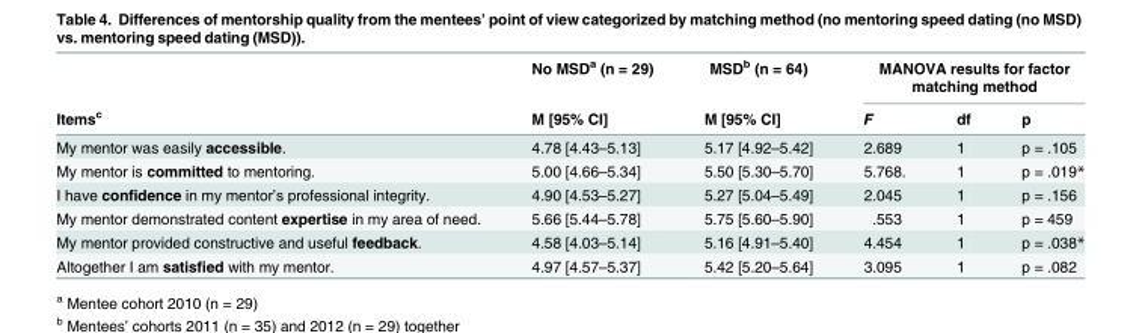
<table><thead><tr><td rowspan="2">Items<sup>c</sup></td><td rowspan="2">No MSD<sup>a</sup> (n = 29) M [95% CI]</td><td rowspan="2">MSD<sup>b</sup> (n = 64) M [95% CI]</td><td colspan="3">MANOVA results for factor matching method</td></tr><tr><td>F</td><td>df</td><td>p</td></tr></thead><tbody><tr><td>My mentor was easily accessible.</td><td>4.78 [4.43–5.13]</td><td>5.17 [4.92–5.42]</td><td>2.689</td><td>1</td><td>p = .105</td></tr><tr><td>My mentor is committed to mentoring.</td><td>5.00 [4.66–5.34]</td><td>5.50 [5.30–5.70]</td><td>5.768.</td><td>1</td><td>p = .019*</td></tr><tr><td>I have confidence in my mentor’s professional integrity.</td><td>4.90 [4.53–5.27]</td><td>5.27 [5.04–5.49]</td><td>2.045</td><td>1</td><td>p = .156</td></tr><tr><td>My mentor demonstrated content expertise in my area of need.</td><td>5.66 [5.44–5.78]</td><td>5.75 [5.60–5.90]</td><td>.553</td><td>1</td><td>p = 459</td></tr><tr><td>My mentor provided constructive and useful feedback.</td><td>4.58 [4.03–5.14]</td><td>5.16 [4.91–5.40]</td><td>4.454</td><td>1</td><td>p = .038*</td></tr><tr><td>Altogether I am satisfied with my mentor.</td><td>4.97 [4.57–5.37]</td><td>5.42 [5.20–5.64]</td><td>3.095</td><td>1</td><td>p = .082</td></tr></tbody></table>